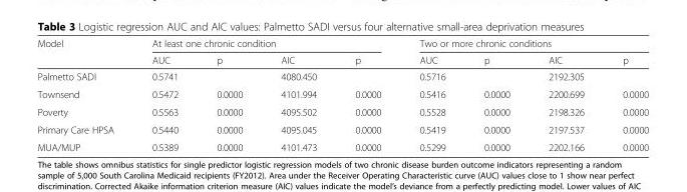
<table><thead><tr><td rowspan="2">Model</td><td colspan="4">At least one chronic condition</td><td colspan="4">Two or more chronic conditions</td></tr><tr><td>AUC</td><td>p</td><td>AIC</td><td>p</td><td>AUC</td><td>p</td><td>AIC</td><td>p</td></tr></thead><tbody><tr><td>Palmetto SADI</td><td>0.5741</td><td></td><td>4080.450</td><td></td><td>0.5716</td><td></td><td>2192.305</td><td></td></tr><tr><td>Townsend</td><td>0.5472</td><td>0.0000</td><td>4101.994</td><td>0.0000</td><td>0.5416</td><td>0.0000</td><td>2200.699</td><td>0.0000</td></tr><tr><td>Poverty</td><td>0.5563</td><td>0.0000</td><td>4095.502</td><td>0.0000</td><td>0.5528</td><td>0.0000</td><td>2198.326</td><td>0.0000</td></tr><tr><td>Primary Care HPSA</td><td>0.5440</td><td>0.0000</td><td>4095.045</td><td>0.0000</td><td>0.5419</td><td>0.0000</td><td>2197.537</td><td>0.0000</td></tr><tr><td>MUA/MUP</td><td>0.5389</td><td>0.0000</td><td>4101.473</td><td>0.0000</td><td>0.5299</td><td>0.0000</td><td>2202.166</td><td>0.0000</td></tr></tbody></table>